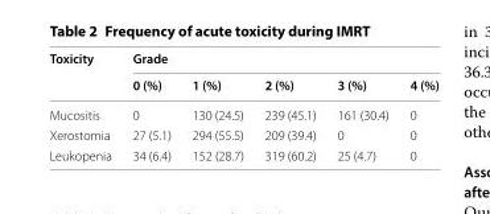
<table><thead><tr><td rowspan="2">Toxicity</td><td colspan="5">Grade</td></tr><tr><td>0 (%)</td><td>1 (%)</td><td>2 (%)</td><td>3 (%)</td><td>4 (%)</td></tr></thead><tbody><tr><td>Mucositis</td><td>0</td><td>130 (24.5)</td><td>239 (45.1)</td><td>161 (30.4)</td><td>0</td></tr><tr><td>Xerostomia</td><td>27 (5.1)</td><td>294 (55.5)</td><td>209 (39.4)</td><td>0</td><td>0</td></tr><tr><td>Leukopenia</td><td>34 (6.4)</td><td>152 (28.7)</td><td>319 (60.2)</td><td>25 (4.7)</td><td>0</td></tr></tbody></table>